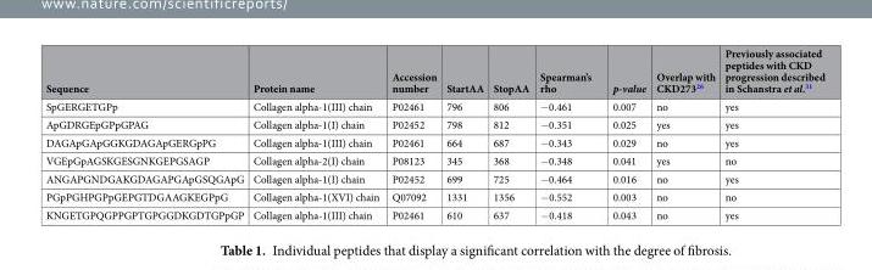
<table><thead><tr><td>Sequence</td><td>Protein name</td><td>Accession number</td><td>StartAA</td><td>StopAA</td><td>Spearman’s rho</td><td>p-value</td><td>Overlap with CKD273<sup>26</sup></td><td>Previously associated peptides with CKD progression described in Schanstra et al.<sup>31</sup></td></tr></thead><tbody><tr><td>SpGERGETGPp</td><td>Collagen alpha-1(III) chain</td><td>P02461</td><td>796</td><td>806</td><td>−0.461</td><td>0.007</td><td>no</td><td>yes</td></tr><tr><td>ApGDRGEpGPpGPAG</td><td>Collagen alpha-1(I) chain</td><td>P02452</td><td>798</td><td>812</td><td>−0.351</td><td>0.025</td><td>yes</td><td>yes</td></tr><tr><td>DAGApGApGGKGDAGApGERGpPG</td><td>Collagen alpha-1(III) chain</td><td>P02461</td><td>664</td><td>687</td><td>−0.343</td><td>0.029</td><td>no</td><td>yes</td></tr><tr><td>VGEpGpAGSKGESGNKGEPGSAGP</td><td>Collagen alpha-2(I) chain</td><td>P08123</td><td>345</td><td>368</td><td>−0.348</td><td>0.041</td><td>yes</td><td>no</td></tr><tr><td>ANGAPGNDGAKGDAGAPGApGSQGApG</td><td>Collagen alpha-1(I) chain</td><td>P02452</td><td>699</td><td>725</td><td>−0.464</td><td>0.016</td><td>no</td><td>yes</td></tr><tr><td>PGpPGHPGPpGEPGTDGAAGKEGPpG</td><td>Collagen alpha-1(XVI) chain</td><td>Q07092</td><td>1331</td><td>1356</td><td>−0.552</td><td>0.003</td><td>no</td><td>no</td></tr><tr><td>KNGETGPQGPPGPTGPGGDKGDTGPpGP</td><td>Collagen alpha-1(III) chain</td><td>P02461</td><td>610</td><td>637</td><td>−0.418</td><td>0.043</td><td>no</td><td>yes</td></tr></tbody></table>